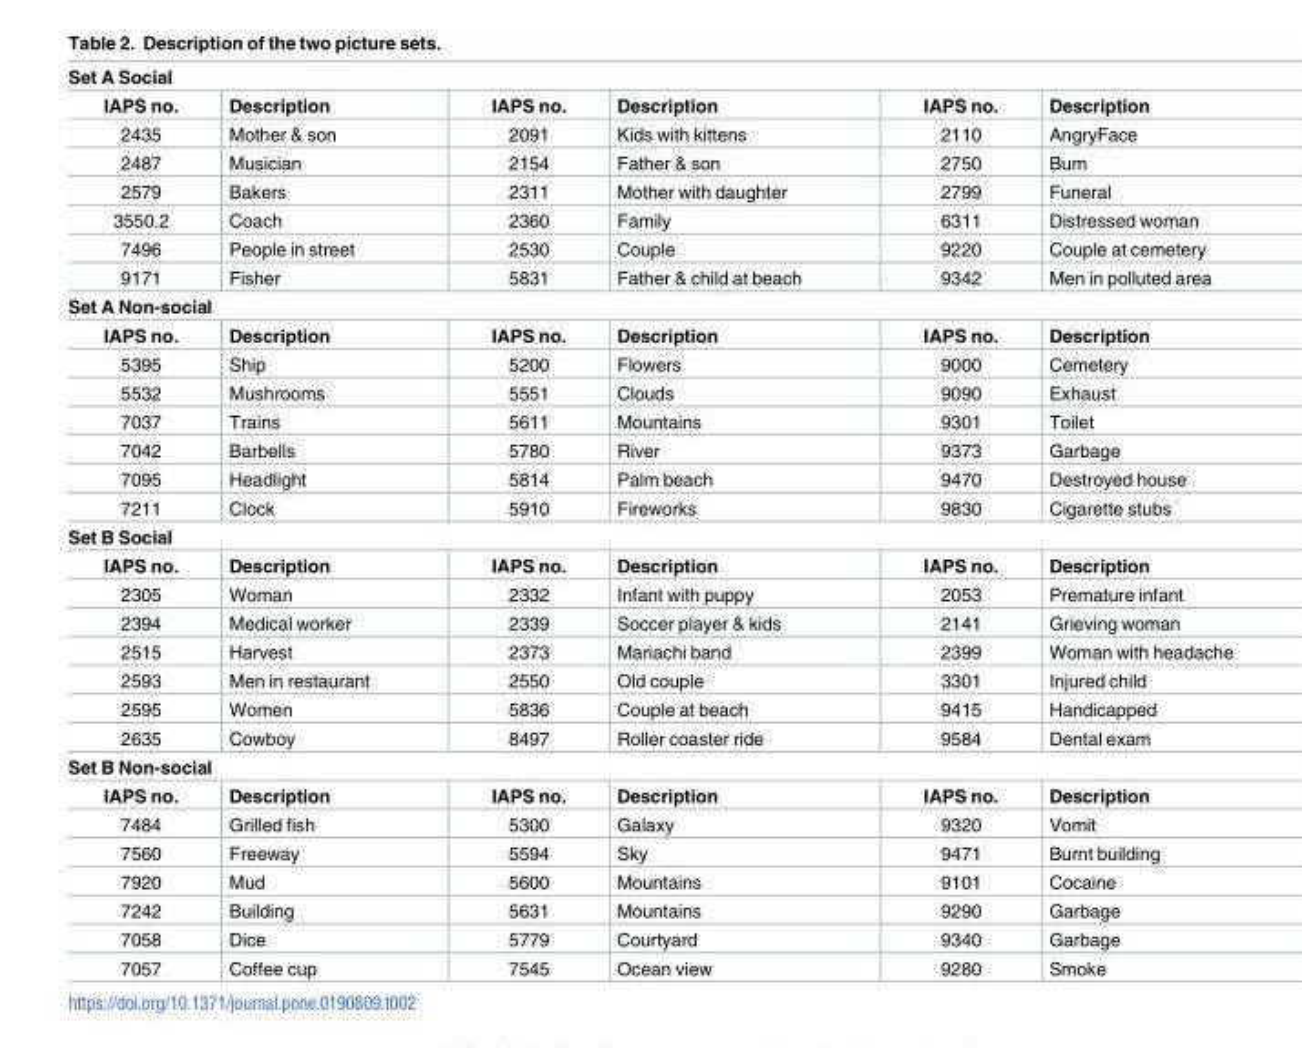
<table><tbody><tr><td colspan="6">Set A Social</td></tr><tr><td>IAPS no.</td><td>Description</td><td>IAPS no.</td><td>Description</td><td>IAPS no.</td><td>Description</td></tr><tr><td>2435</td><td>Mother &amp; son</td><td>2091</td><td>Kids with kittens</td><td>2110</td><td>AngryFace</td></tr><tr><td>2487</td><td>Musician</td><td>2154</td><td>Father &amp; son</td><td>2750</td><td>Bum</td></tr><tr><td>2579</td><td>Bakers</td><td>2311</td><td>Mother with daughter</td><td>2799</td><td>Funeral</td></tr><tr><td>3550.2</td><td>Coach</td><td>2360</td><td>Family</td><td>6311</td><td>Distressed woman</td></tr><tr><td>7496</td><td>People in street</td><td>2530</td><td>Couple</td><td>9220</td><td>Couple at cemetery</td></tr><tr><td>9171</td><td>Fisher</td><td>5831</td><td>Father &amp; child at beach</td><td>9342</td><td>Men in polluted area</td></tr><tr><td colspan="6">Set A Non-social</td></tr><tr><td>IAPS no.</td><td>Description</td><td>IAPS no.</td><td>Description</td><td>IAPS no.</td><td>Description</td></tr><tr><td>5395</td><td>Ship</td><td>5200</td><td>Flowers</td><td>9000</td><td>Cemetery</td></tr><tr><td>5532</td><td>Mushrooms</td><td>5551</td><td>Clouds</td><td>9090</td><td>Exhaust</td></tr><tr><td>7037</td><td>Trains</td><td>5611</td><td>Mountains</td><td>9301</td><td>Toilet</td></tr><tr><td>7042</td><td>Barbells</td><td>5780</td><td>River</td><td>9373</td><td>Garbage</td></tr><tr><td>7095</td><td>Headlight</td><td>5814</td><td>Palm beach</td><td>9470</td><td>Destroyed house</td></tr><tr><td>7211</td><td>Clock</td><td>5910</td><td>Fireworks</td><td>9830</td><td>Cigarette stubs</td></tr><tr><td colspan="6">Set B Social</td></tr><tr><td>IAPS no.</td><td>Description</td><td>IAPS no.</td><td>Description</td><td>IAPS no.</td><td>Description</td></tr><tr><td>2305</td><td>Woman</td><td>2332</td><td>Infant with puppy</td><td>2053</td><td>Premature infant</td></tr><tr><td>2394</td><td>Medical worker</td><td>2339</td><td>Soccer player &amp; kids</td><td>2141</td><td>Grieving woman</td></tr><tr><td>2515</td><td>Harvest</td><td>2373</td><td>Mariachi band</td><td>2399</td><td>Woman with headache</td></tr><tr><td>2593</td><td>Men in restaurant</td><td>2550</td><td>Old couple</td><td>3301</td><td>Injured child</td></tr><tr><td>2595</td><td>Women</td><td>5836</td><td>Couple at beach</td><td>9415</td><td>Handicapped</td></tr><tr><td>2635</td><td>Cowboy</td><td>8497</td><td>Roller coaster ride</td><td>9584</td><td>Dental exam</td></tr><tr><td colspan="6">Set B Non-social</td></tr><tr><td>IAPS no.</td><td>Description</td><td>IAPS no.</td><td>Description</td><td>IAPS no.</td><td>Description</td></tr><tr><td>7484</td><td>Grilled fish</td><td>5300</td><td>Galaxy</td><td>9320</td><td>Vomit</td></tr><tr><td>7560</td><td>Freeway</td><td>5594</td><td>Sky</td><td>9471</td><td>Burnt building</td></tr><tr><td>7920</td><td>Mud</td><td>5600</td><td>Mountains</td><td>9101</td><td>Cocaine</td></tr><tr><td>7242</td><td>Building</td><td>5631</td><td>Mountains</td><td>9290</td><td>Garbage</td></tr><tr><td>7058</td><td>Dice</td><td>5779</td><td>Courtyard</td><td>9340</td><td>Garbage</td></tr><tr><td>7057</td><td>Coffee cup</td><td>7545</td><td>Ocean view</td><td>9280</td><td>Smoke</td></tr></tbody></table>